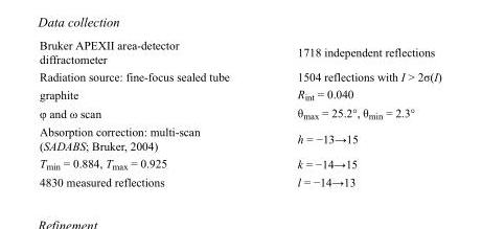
<table><tbody><tr><td>Bruker APEXII area-detector diffractometer</td><td>1718 independent reflections</td></tr><tr><td>Radiation source: fine-focus sealed tube</td><td>1504 reflections with I &gt; 2σ(I)</td></tr><tr><td>graphite</td><td>R<sub>int</sub> = 0.040</td></tr><tr><td>φ and ω scan</td><td>θ<sub>max</sub> = 25.2°, θ<sub>min</sub> = 2.3°</td></tr><tr><td>Absorption correction: multi-scan (SADABS; Bruker, 2004)</td><td>h = −13→15</td></tr><tr><td>T<sub>min</sub> = 0.884, T<sub>max</sub> = 0.925</td><td>k = −14→15</td></tr><tr><td>4830 measured reflections</td><td>l = −14→13</td></tr></tbody></table>